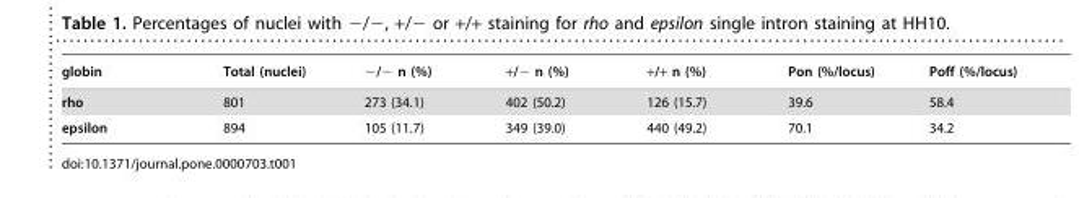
<table><thead><tr><td>globin</td><td>Total (nuclei)</td><td>−/− n (%)</td><td>+/− n (%)</td><td>+/+ n (%)</td><td>Pon (%/locus)</td><td>Poff (%/locus)</td></tr></thead><tbody><tr><td>rho</td><td>801</td><td>273 (34.1)</td><td>402 (50.2)</td><td>126 (15.7)</td><td>39.6</td><td>58.4</td></tr><tr><td>epsilon</td><td>894</td><td>105 (11.7)</td><td>349 (39.0)</td><td>440 (49.2)</td><td>70.1</td><td>34.2</td></tr></tbody></table>